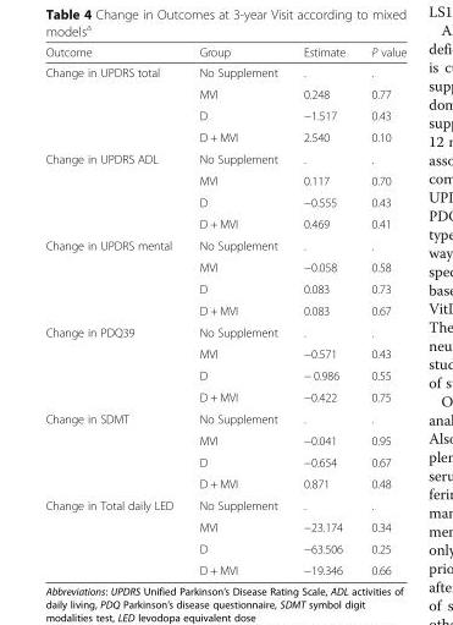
<table><thead><tr><td>Outcome</td><td>Group</td><td>Estimate</td><td>P value</td></tr></thead><tbody><tr><td rowspan="4">Change in UPDRS total</td><td>No Supplement</td><td>.</td><td>.</td></tr><tr><td>MVI</td><td>0.248</td><td>0.77</td></tr><tr><td>D</td><td>−1.517</td><td>0.43</td></tr><tr><td>D + MVI</td><td>2.540</td><td>0.10</td></tr><tr><td rowspan="4">Change in UPDRS ADL</td><td>No Supplement</td><td>.</td><td>.</td></tr><tr><td>MVI</td><td>0.117</td><td>0.70</td></tr><tr><td>D</td><td>−0.555</td><td>0.43</td></tr><tr><td>D + MVI</td><td>0.469</td><td>0.41</td></tr><tr><td rowspan="4">Change in UPDRS mental</td><td>No Supplement</td><td>.</td><td>.</td></tr><tr><td>MVI</td><td>−0.058</td><td>0.58</td></tr><tr><td>D</td><td>0.083</td><td>0.73</td></tr><tr><td>D + MVI</td><td>0.083</td><td>0.67</td></tr><tr><td rowspan="4">Change in PDQ39</td><td>No Supplement</td><td>.</td><td>.</td></tr><tr><td>MVI</td><td>−0.571</td><td>0.43</td></tr><tr><td>D</td><td>− 0.986</td><td>0.55</td></tr><tr><td>D + MVI</td><td>−0.422</td><td>0.75</td></tr><tr><td rowspan="4">Change in SDMT</td><td>No Supplement</td><td>.</td><td>.</td></tr><tr><td>MVI</td><td>−0.041</td><td>0.95</td></tr><tr><td>D</td><td>−0.654</td><td>0.67</td></tr><tr><td>D + MVI</td><td>0.871</td><td>0.48</td></tr><tr><td rowspan="4">Change in Total daily LED</td><td>No Supplement</td><td>.</td><td>.</td></tr><tr><td>MVI</td><td>−23.174</td><td>0.34</td></tr><tr><td>D</td><td>−63.506</td><td>0.25</td></tr><tr><td>D + MVI</td><td>−19.346</td><td>0.66</td></tr></tbody></table>